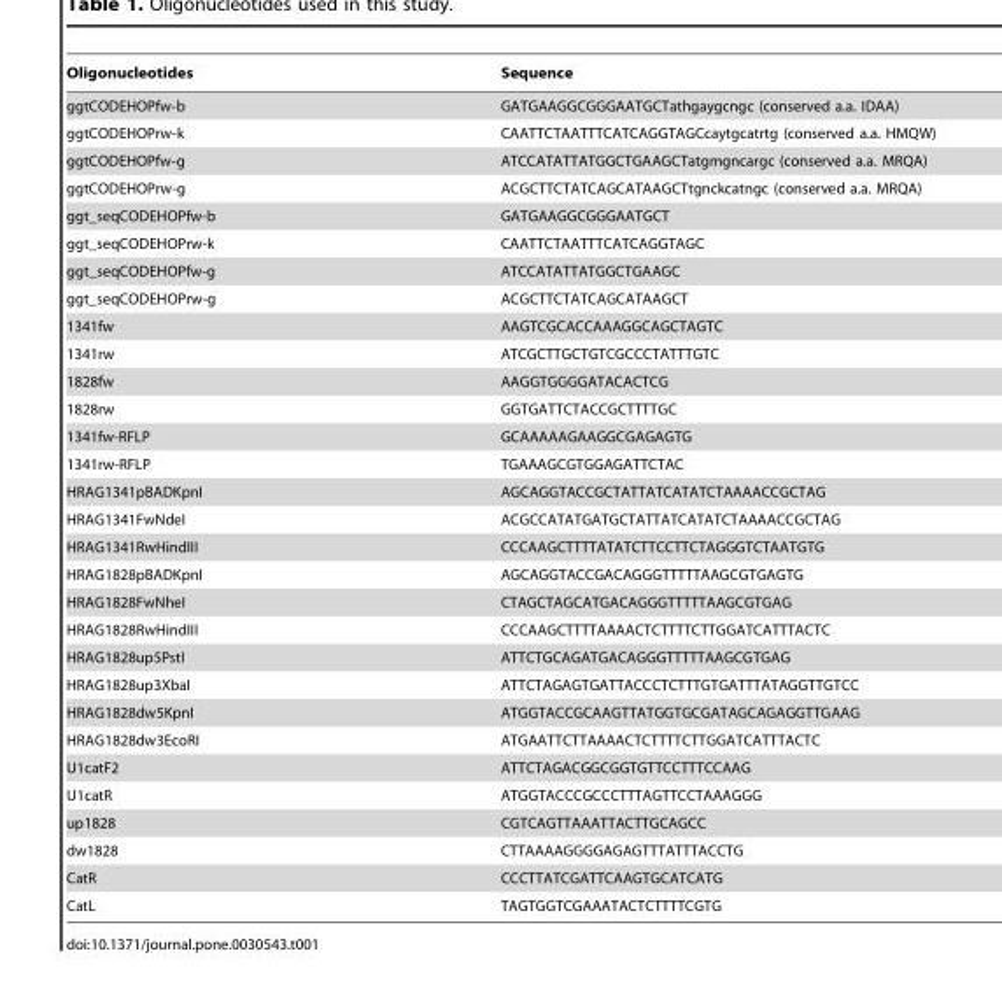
<table><thead><tr><td>Oligonucleotides</td><td>Sequence</td></tr></thead><tbody><tr><td>ggtCODEHOPfw-b</td><td>GATGAAGGCGGGAATGCTathgaygcngc (conserved a.a. IDAA)</td></tr><tr><td>ggtCODEHOPrw-k</td><td>CAATTCTAATTTCATCAGGTAGCcaytgcatrtg (conserved a.a. HMQW)</td></tr><tr><td>ggtCODEHOPfw-g</td><td>ATCCATATTATGGCTGAAGCTatgmgncargc (conserved a.a. MRQA)</td></tr><tr><td>ggtCODEHOPrw-g</td><td>ACGCTTCTATCAGCATAAGCTtgnckcatngc (conserved a.a. MRQA)</td></tr><tr><td>ggt_seqCODEHOPfw-b</td><td>GATGAAGGCGGGAATGCT</td></tr><tr><td>ggt_seqCODEHOPrw-k</td><td>CAATTCTAATTTCATCAGGTAGC</td></tr><tr><td>ggt_seqCODEHOPfw-g</td><td>ATCCATATTATGGCTGAAGC</td></tr><tr><td>ggt_seqCODEHOPrw-g</td><td>ACGCTTCTATCAGCATAAGCT</td></tr><tr><td>1341fw</td><td>AAGTCGCACCAAAGGCAGCTAGTC</td></tr><tr><td>1341rw</td><td>ATCGCTTGCTGTCGCCCTATTTGTC</td></tr><tr><td>1828fw</td><td>AAGGTGGGGATACACTCG</td></tr><tr><td>1828rw</td><td>GGTGATTCTACCGCTTTTGC</td></tr><tr><td>1341fw-RFLP</td><td>GCAAAAAGAAGGCGAGAGTG</td></tr><tr><td>1341rw-RFLP</td><td>TGAAAGCGTGGAGATTCTAC</td></tr><tr><td>HRAG1341pBADKpnI</td><td>AGCAGGTACCGCTATTATCATATCTAAAACCGCTAG</td></tr><tr><td>HRAG1341FwNdeI</td><td>ACGCCATATGATGCTATTATCATATCTAAAACCGCTAG</td></tr><tr><td>HRAG1341RwHindIII</td><td>CCCAAGCTTTTATATCTTCCTTCTAGGGTCTAATGTG</td></tr><tr><td>HRAG1828pBADKpnI</td><td>AGCAGGTACCGACAGGGTTTTTAAGCGTGAGTG</td></tr><tr><td>HRAG1828FwNheI</td><td>CTAGCTAGCATGACAGGGTTTTTAAGCGTGAG</td></tr><tr><td>HRAG1828RwHindIII</td><td>CCCAAGCTTTTAAAACTCTTTTCTTGGATCATTTACTC</td></tr><tr><td>HRAG1828up5PstI</td><td>ATTCTGCAGATGACAGGGTTTTTAAGCGTGAG</td></tr><tr><td>HRAG1828up3XbaI</td><td>ATTCTAGAGTGATTACCCTCTTTGTGATTTATAGGTTGTCC</td></tr><tr><td>HRAG1828dw5KpnI</td><td>ATGGTACCGCAAGTTATGGTGCGATAGCAGAGGTTGAAG</td></tr><tr><td>HRAG1828dw3EcoRI</td><td>ATGAATTCTTAAAACTCTTTTCTTGGATCATTTACTC</td></tr><tr><td>U1catF2</td><td>ATTCTAGACGGCGGTGTTCCTTTCCAAG</td></tr><tr><td>U1catR</td><td>ATGGTACCCGCCCTTTAGTTCCTAAAGGG</td></tr><tr><td>up1828</td><td>CGTCAGTTAAATTACTTGCAGCC</td></tr><tr><td>dw1828</td><td>CTTAAAAGGGGAGAGTTTATTTACCTG</td></tr><tr><td>CatR</td><td>CCCTTATCGATTCAAGTGCATCATG</td></tr><tr><td>CatL</td><td>TAGTGGTCGAAATACTCTTTTCGTG</td></tr></tbody></table>